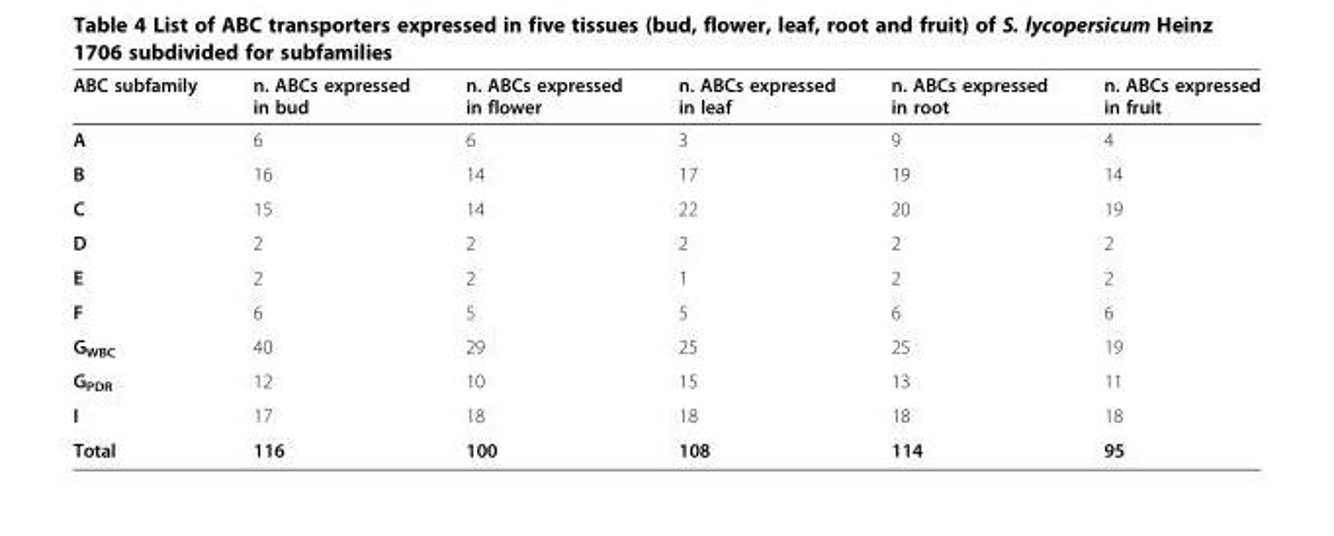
<table><thead><tr><td>ABC subfamily</td><td>n. ABCs expressed in bud</td><td>n. ABCs expressed in flower</td><td>n. ABCs expressed in leaf</td><td>n. ABCs expressed in root</td><td>n. ABCs expressed in fruit</td></tr></thead><tbody><tr><td>A</td><td>6</td><td>6</td><td>3</td><td>9</td><td>4</td></tr><tr><td>B</td><td>16</td><td>14</td><td>17</td><td>19</td><td>14</td></tr><tr><td>C</td><td>15</td><td>14</td><td>22</td><td>20</td><td>19</td></tr><tr><td>D</td><td>2</td><td>2</td><td>2</td><td>2</td><td>2</td></tr><tr><td>E</td><td>2</td><td>2</td><td>1</td><td>2</td><td>2</td></tr><tr><td>F</td><td>6</td><td>5</td><td>5</td><td>6</td><td>6</td></tr><tr><td>G<sub>WBC</sub></td><td>40</td><td>29</td><td>25</td><td>25</td><td>19</td></tr><tr><td>G<sub>PDR</sub></td><td>12</td><td>10</td><td>15</td><td>13</td><td>11</td></tr><tr><td>I</td><td>17</td><td>18</td><td>18</td><td>18</td><td>18</td></tr><tr><td>Total</td><td>116</td><td>100</td><td>108</td><td>114</td><td>95</td></tr></tbody></table>